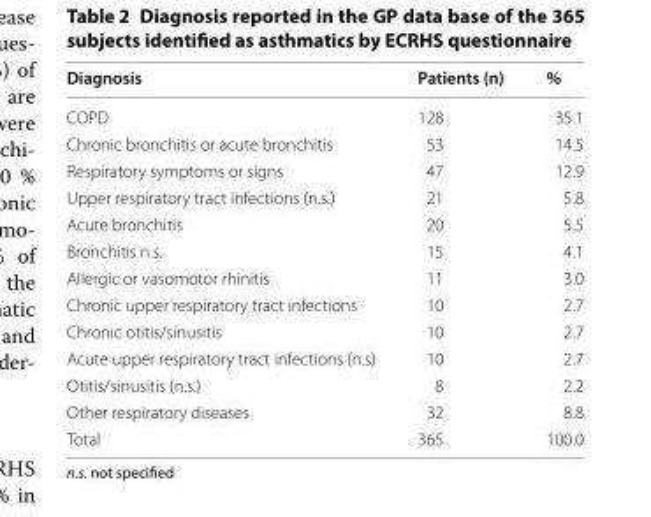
<table><thead><tr><td>Diagnosis</td><td>Patients (n)</td><td>%</td></tr></thead><tbody><tr><td>COPD</td><td>128</td><td>35.1</td></tr><tr><td>Chronic bronchitis or acute bronchitis</td><td>53</td><td>14.5</td></tr><tr><td>Respiratory symptoms or signs</td><td>47</td><td>12.9</td></tr><tr><td>Upper respiratory tract infections (n.s.)</td><td>21</td><td>5.8</td></tr><tr><td>Acute bronchitis</td><td>20</td><td>5.5</td></tr><tr><td>Bronchitis n.s.</td><td>15</td><td>4.1</td></tr><tr><td>Allergic or vasomotor rhinitis</td><td>11</td><td>3.0</td></tr><tr><td>Chronic upper respiratory tract infections</td><td>10</td><td>2.7</td></tr><tr><td>Chronic otitis/sinusitis</td><td>10</td><td>2.7</td></tr><tr><td>Acute upper respiratory tract infections (n.s)</td><td>10</td><td>2.7</td></tr><tr><td>Otitis/sinusitis (n.s.)</td><td>8</td><td>2.2</td></tr><tr><td>Other respiratory diseases</td><td>32</td><td>8.8</td></tr><tr><td>Total</td><td>365</td><td>100.0</td></tr></tbody></table>